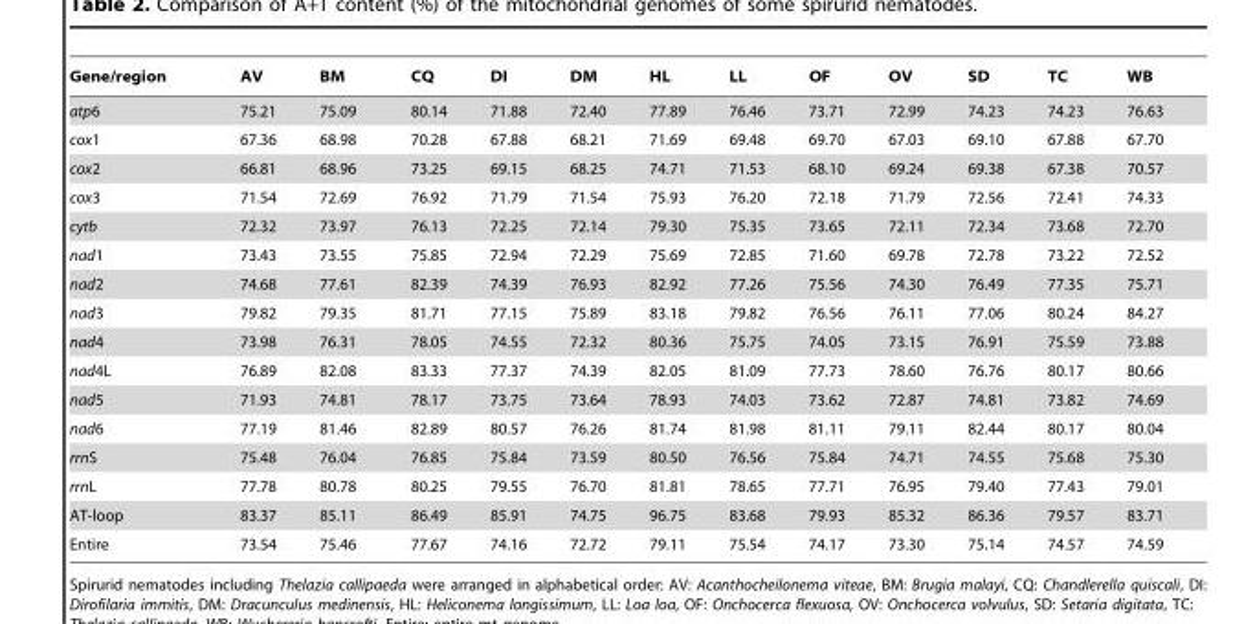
<table><thead><tr><td>Gene/region</td><td>AV</td><td>BM</td><td>CQ</td><td>DI</td><td>DM</td><td>HL</td><td>LL</td><td>OF</td><td>OV</td><td>SD</td><td>TC</td><td>WB</td></tr></thead><tbody><tr><td>atp6</td><td>75.21</td><td>75.09</td><td>80.14</td><td>71.88</td><td>72.40</td><td>77.89</td><td>76.46</td><td>73.71</td><td>72.99</td><td>74.23</td><td>74.23</td><td>76.63</td></tr><tr><td>cox1</td><td>67.36</td><td>68.98</td><td>70.28</td><td>67.88</td><td>68.21</td><td>71.69</td><td>69.48</td><td>69.70</td><td>67.03</td><td>69.10</td><td>67.88</td><td>67.70</td></tr><tr><td>cox2</td><td>66.81</td><td>68.96</td><td>73.25</td><td>69.15</td><td>68.25</td><td>74.71</td><td>71.53</td><td>68.10</td><td>69.24</td><td>69.38</td><td>67.38</td><td>70.57</td></tr><tr><td>cox3</td><td>71.54</td><td>72.69</td><td>76.92</td><td>71.79</td><td>71.54</td><td>75.93</td><td>76.20</td><td>72.18</td><td>71.79</td><td>72.56</td><td>72.41</td><td>74.33</td></tr><tr><td>cytb</td><td>72.32</td><td>73.97</td><td>76.13</td><td>72.25</td><td>72.14</td><td>79.30</td><td>75.35</td><td>73.65</td><td>72.11</td><td>72.34</td><td>73.68</td><td>72.70</td></tr><tr><td>nad1</td><td>73.43</td><td>73.55</td><td>75.85</td><td>72.94</td><td>72.29</td><td>75.69</td><td>72.85</td><td>71.60</td><td>69.78</td><td>72.78</td><td>73.22</td><td>72.52</td></tr><tr><td>nad2</td><td>74.68</td><td>77.61</td><td>82.39</td><td>74.39</td><td>76.93</td><td>82.92</td><td>77.26</td><td>75.56</td><td>74.30</td><td>76.49</td><td>77.35</td><td>75.71</td></tr><tr><td>nad3</td><td>79.82</td><td>79.35</td><td>81.71</td><td>77.15</td><td>75.89</td><td>83.18</td><td>79.82</td><td>76.56</td><td>76.11</td><td>77.06</td><td>80.24</td><td>84.27</td></tr><tr><td>nad4</td><td>73.98</td><td>76.31</td><td>78.05</td><td>74.55</td><td>72.32</td><td>80.36</td><td>75.75</td><td>74.05</td><td>73.15</td><td>76.91</td><td>75.59</td><td>73.88</td></tr><tr><td>nad4L</td><td>76.89</td><td>82.08</td><td>83.33</td><td>77.37</td><td>74.39</td><td>82.05</td><td>81.09</td><td>77.73</td><td>78.60</td><td>76.76</td><td>80.17</td><td>80.66</td></tr><tr><td>nad5</td><td>71.93</td><td>74.81</td><td>78.17</td><td>73.75</td><td>73.64</td><td>78.93</td><td>74.03</td><td>73.62</td><td>72.87</td><td>74.81</td><td>73.82</td><td>74.69</td></tr><tr><td>nad6</td><td>77.19</td><td>81.46</td><td>82.89</td><td>80.57</td><td>76.26</td><td>81.74</td><td>81.98</td><td>81.11</td><td>79.11</td><td>82.44</td><td>80.17</td><td>80.04</td></tr><tr><td>rrnS</td><td>75.48</td><td>76.04</td><td>76.85</td><td>75.84</td><td>73.59</td><td>80.50</td><td>76.56</td><td>75.84</td><td>74.71</td><td>74.55</td><td>75.68</td><td>75.30</td></tr><tr><td>rrnL</td><td>77.78</td><td>80.78</td><td>80.25</td><td>79.55</td><td>76.70</td><td>81.81</td><td>78.65</td><td>77.71</td><td>76.95</td><td>79.40</td><td>77.43</td><td>79.01</td></tr><tr><td>AT-loop</td><td>83.37</td><td>85.11</td><td>86.49</td><td>85.91</td><td>74.75</td><td>96.75</td><td>83.68</td><td>79.93</td><td>85.32</td><td>86.36</td><td>79.57</td><td>83.71</td></tr><tr><td>Entire</td><td>73.54</td><td>75.46</td><td>77.67</td><td>74.16</td><td>72.72</td><td>79.11</td><td>75.54</td><td>74.17</td><td>73.30</td><td>75.14</td><td>74.57</td><td>74.59</td></tr></tbody></table>